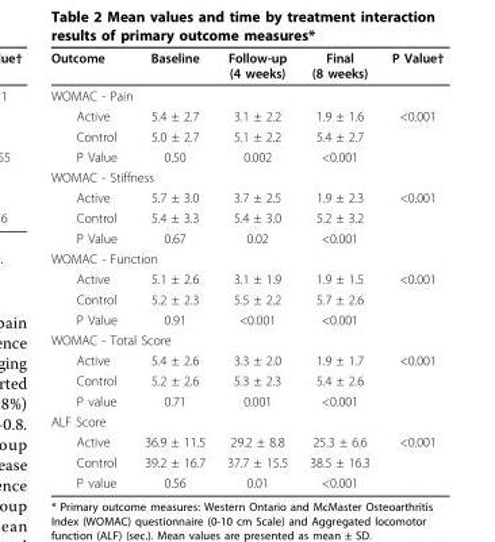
<table><thead><tr><td>Outcome</td><td>Baseline</td><td>Follow-up (4 weeks)</td><td>Final (8 weeks)</td><td>P Value†</td></tr></thead><tbody><tr><td colspan="5">WOMAC - Pain</td></tr><tr><td>Active</td><td>5.4 ± 2.7</td><td>3.1 ± 2.2</td><td>1.9 ± 1.6</td><td>&lt;0.001</td></tr><tr><td>Control</td><td>5.0 ± 2.7</td><td>5.1 ± 2.2</td><td>5.4 ± 2.7</td><td></td></tr><tr><td>P Value</td><td>0.50</td><td>0.002</td><td>&lt;0.001</td><td></td></tr><tr><td colspan="5">WOMAC - Stiffness</td></tr><tr><td>Active</td><td>5.7 ± 3.0</td><td>3.7 ± 2.5</td><td>1.9 ± 2.3</td><td>&lt;0.001</td></tr><tr><td>Control</td><td>5.4 ± 3.3</td><td>5.4 ± 3.0</td><td>5.2 ± 3.2</td><td></td></tr><tr><td>P Value</td><td>0.67</td><td>0.02</td><td>&lt;0.001</td><td></td></tr><tr><td colspan="5">WOMAC - Function</td></tr><tr><td>Active</td><td>5.1 ± 2.6</td><td>3.1 ± 1.9</td><td>1.9 ± 1.5</td><td>&lt;0.001</td></tr><tr><td>Control</td><td>5.2 ± 2.3</td><td>5.5 ± 2.2</td><td>5.7 ± 2.6</td><td></td></tr><tr><td>P Value</td><td>0.91</td><td>&lt;0.001</td><td>&lt;0.001</td><td></td></tr><tr><td colspan="5">WOMAC - Total Score</td></tr><tr><td>Active</td><td>5.4 ± 2.6</td><td>3.3 ± 2.0</td><td>1.9 ± 1.7</td><td>&lt;0.001</td></tr><tr><td>Control</td><td>5.2 ± 2.6</td><td>5.3 ± 2.3</td><td>5.4 ± 2.6</td><td></td></tr><tr><td>P value</td><td>0.71</td><td>0.001</td><td>&lt;0.001</td><td></td></tr><tr><td colspan="5">ALF Score</td></tr><tr><td>Active</td><td>36.9 ± 11.5</td><td>29.2 ± 8.8</td><td>25.3 ± 6.6</td><td>&lt;0.001</td></tr><tr><td>Control</td><td>39.2 ± 16.7</td><td>37.7 ± 15.5</td><td>38.5 ± 16.3</td><td></td></tr><tr><td>P value</td><td>0.56</td><td>0.01</td><td>&lt;0.001</td><td></td></tr></tbody></table>